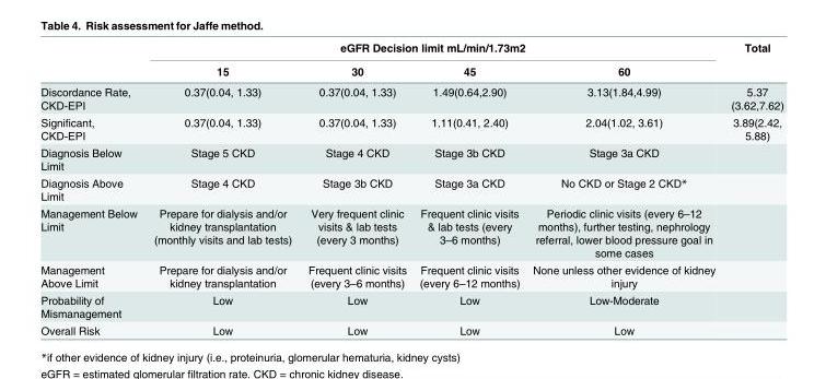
<table><thead><tr><td rowspan="2"></td><td colspan="4">eGFR Decision limit mL/min/1.73m2</td><td rowspan="2">Total</td></tr><tr><td>15</td><td>30</td><td>45</td><td>60</td></tr></thead><tbody><tr><td>Discordance Rate, CKD-EPI</td><td>0.37(0.04, 1.33)</td><td>0.37(0.04, 1.33)</td><td>1.49(0.64,2.90)</td><td>3.13(1.84,4.99)</td><td>5.37 (3.62,7.62)</td></tr><tr><td>Significant, CKD-EPI</td><td>0.37(0.04, 1.33)</td><td>0.37(0.04, 1.33)</td><td>1.11(0.41, 2.40)</td><td>2.04(1.02, 3.61)</td><td>3.89(2.42, 5.88)</td></tr><tr><td>Diagnosis Below Limit</td><td>Stage 5 CKD</td><td>Stage 4 CKD</td><td>Stage 3b CKD</td><td>Stage 3a CKD</td><td></td></tr><tr><td>Diagnosis Above Limit</td><td>Stage 4 CKD</td><td>Stage 3b CKD</td><td>Stage 3a CKD</td><td>No CKD or Stage 2 CKD*</td><td></td></tr><tr><td>Management Below Limit</td><td>Prepare for dialysis and/or kidney transplantation (monthly visits and lab tests)</td><td>Very frequent clinic visits &amp; lab tests (every 3 months)</td><td>Frequent clinic visits &amp; lab tests (every 3–6 months)</td><td>Periodic clinic visits (every 6–12 months), further testing, nephrology referral, lower blood pressure goal in some cases</td><td></td></tr><tr><td>Management Above Limit</td><td>Prepare for dialysis and/or kidney transplantation</td><td>Frequent clinic visits (every 3–6 months)</td><td>Frequent clinic visits (every 6–12 months)</td><td>None unless other evidence of kidney injury</td><td></td></tr><tr><td>Probability of Mismanagement</td><td>Low</td><td>Low</td><td>Low</td><td>Low-Moderate</td><td></td></tr><tr><td>Overall Risk</td><td>Low</td><td>Low</td><td>Low</td><td>Low</td><td></td></tr></tbody></table>